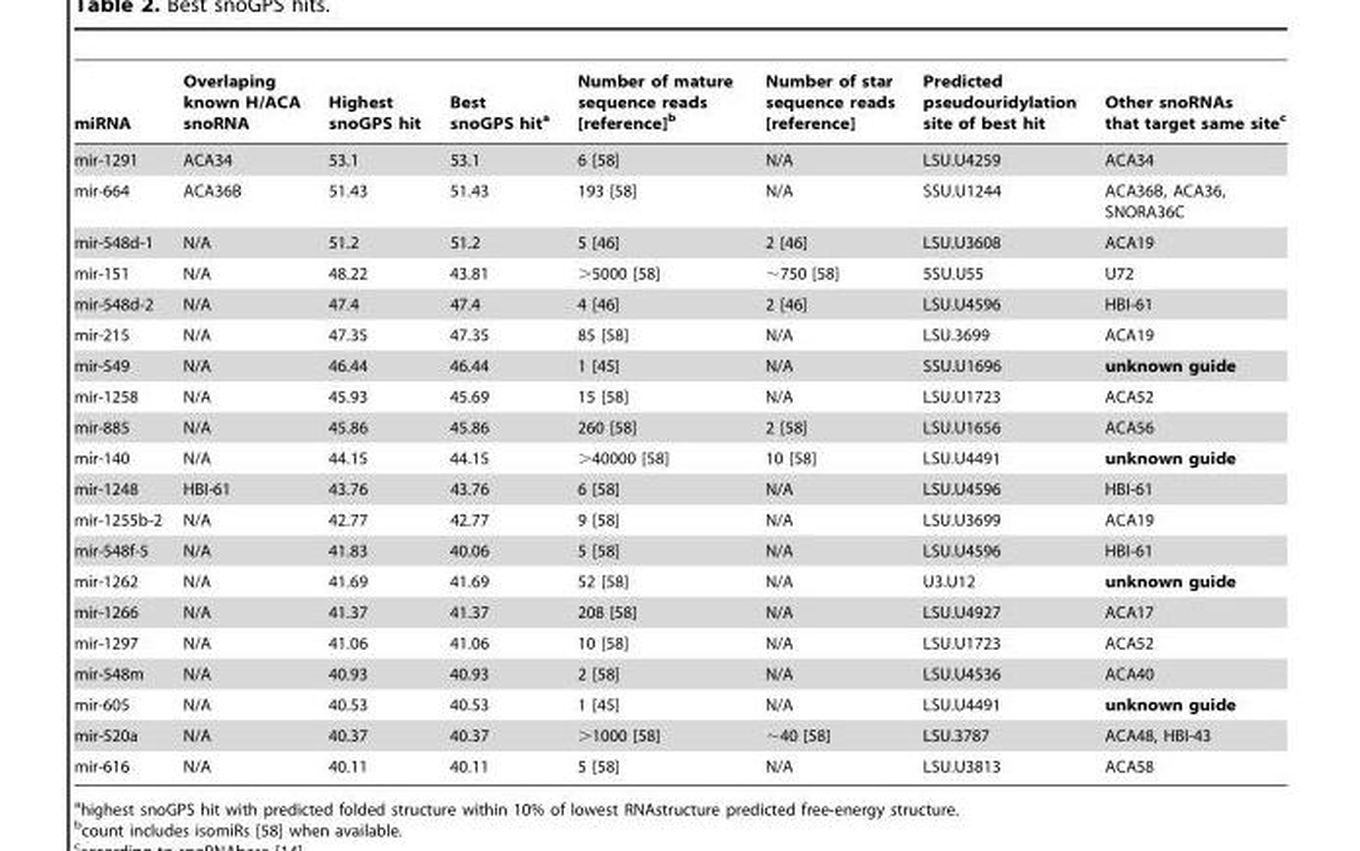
<table><thead><tr><td>miRNA</td><td>Overlaping known H/ACA snoRNA</td><td>Highest snoGPS hit</td><td>Best snoGPS hit<sup>a</sup></td><td>Number of mature sequence reads [reference]<sup>b</sup></td><td>Number of star sequence reads [reference]</td><td>Predicted pseudouridylation site of best hit</td><td>Other snoRNAs that target same site<sup>c</sup></td></tr></thead><tbody><tr><td>mir-1291</td><td>ACA34</td><td>53.1</td><td>53.1</td><td>6 [58]</td><td>N/A</td><td>LSU.U4259</td><td>ACA34</td></tr><tr><td>mir-664</td><td>ACA36B</td><td>51.43</td><td>51.43</td><td>193 [58]</td><td>N/A</td><td>SSU.U1244</td><td>ACA36B, ACA36, SNORA36C</td></tr><tr><td>mir-548d-1</td><td>N/A</td><td>51.2</td><td>51.2</td><td>5 [46]</td><td>2 [46]</td><td>LSU.U3608</td><td>ACA19</td></tr><tr><td>mir-151</td><td>N/A</td><td>48.22</td><td>43.81</td><td>&gt;5000 [58]</td><td>∼750 [58]</td><td>5SU.U55</td><td>U72</td></tr><tr><td>mir-548d-2</td><td>N/A</td><td>47.4</td><td>47.4</td><td>4 [46]</td><td>2 [46]</td><td>LSU.U4596</td><td>HBI-61</td></tr><tr><td>mir-215</td><td>N/A</td><td>47.35</td><td>47.35</td><td>85 [58]</td><td>N/A</td><td>LSU.3699</td><td>ACA19</td></tr><tr><td>mir-549</td><td>N/A</td><td>46.44</td><td>46.44</td><td>1 [45]</td><td>N/A</td><td>SSU.U1696</td><td>unknown guide</td></tr><tr><td>mir-1258</td><td>N/A</td><td>45.93</td><td>45.69</td><td>15 [58]</td><td>N/A</td><td>LSU.U1723</td><td>ACA52</td></tr><tr><td>mir-885</td><td>N/A</td><td>45.86</td><td>45.86</td><td>260 [58]</td><td>2 [58]</td><td>LSU.U1656</td><td>ACA56</td></tr><tr><td>mir-140</td><td>N/A</td><td>44.15</td><td>44.15</td><td>&gt;40000 [58]</td><td>10 [58]</td><td>LSU.U4491</td><td>unknown guide</td></tr><tr><td>mir-1248</td><td>HBI-61</td><td>43.76</td><td>43.76</td><td>6 [58]</td><td>N/A</td><td>LSU.U4596</td><td>HBI-61</td></tr><tr><td>mir-1255b-2</td><td>N/A</td><td>42.77</td><td>42.77</td><td>9 [58]</td><td>N/A</td><td>LSU.U3699</td><td>ACA19</td></tr><tr><td>mir-548f-5</td><td>N/A</td><td>41.83</td><td>40.06</td><td>5 [58]</td><td>N/A</td><td>LSU.U4596</td><td>HBI-61</td></tr><tr><td>mir-1262</td><td>N/A</td><td>41.69</td><td>41.69</td><td>52 [58]</td><td>N/A</td><td>U3.U12</td><td>unknown guide</td></tr><tr><td>mir-1266</td><td>N/A</td><td>41.37</td><td>41.37</td><td>208 [58]</td><td>N/A</td><td>LSU.U4927</td><td>ACA17</td></tr><tr><td>mir-1297</td><td>N/A</td><td>41.06</td><td>41.06</td><td>10 [58]</td><td>N/A</td><td>LSU.U1723</td><td>ACA52</td></tr><tr><td>mir-548m</td><td>N/A</td><td>40.93</td><td>40.93</td><td>2 [58]</td><td>N/A</td><td>LSU.U4536</td><td>ACA40</td></tr><tr><td>mir-605</td><td>N/A</td><td>40.53</td><td>40.53</td><td>1 [45]</td><td>N/A</td><td>LSU.U4491</td><td>unknown guide</td></tr><tr><td>mir-520a</td><td>N/A</td><td>40.37</td><td>40.37</td><td>&gt;1000 [58]</td><td>∼40 [58]</td><td>LSU.3787</td><td>ACA48, HBI-43</td></tr><tr><td>mir-616</td><td>N/A</td><td>40.11</td><td>40.11</td><td>5 [58]</td><td>N/A</td><td>LSU.U3813</td><td>ACA58</td></tr></tbody></table>